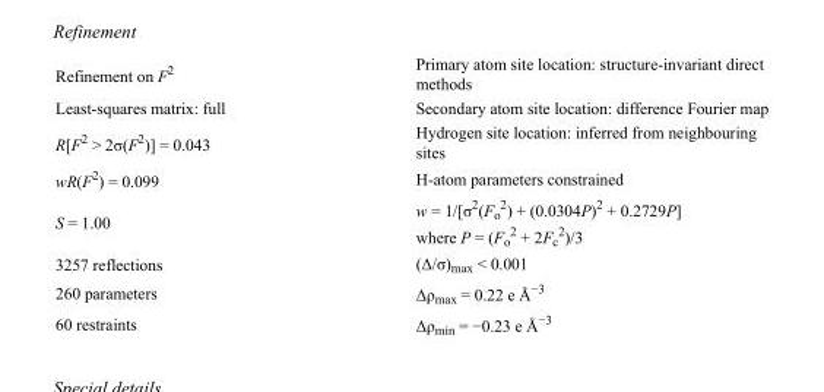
<table><tbody><tr><td>Refinement on F<sup>2</sup></td><td>Primary atom site location: structure-invariant direct methods</td></tr><tr><td>Least-squares matrix: full</td><td>Secondary atom site location: difference Fourier map</td></tr><tr><td>R[F<sup>2</sup> &gt; 2σ(F<sup>2</sup>)] = 0.043</td><td>Hydrogen site location: inferred from neighbouring sites</td></tr><tr><td>wR(F<sup>2</sup>) = 0.099</td><td>H-atom parameters constrained</td></tr><tr><td>S = 1.00</td><td>w = 1/[σ<sup>2</sup>(F<sub>o</sub> <sup>2</sup>) + (0.0304P)<sup>2</sup> + 0.2729P] where P = (F<sub>o</sub> <sup>2</sup> + 2F<sub>c</sub> <sup>2</sup>)/3</td></tr><tr><td>3257 reflections</td><td>(Δ/σ)<sub>max</sub> &lt; 0.001</td></tr><tr><td>260 parameters</td><td>Δρ<sub>max</sub> = 0.22 e Å<sup>−3</sup></td></tr><tr><td>60 restraints</td><td>Δρ<sub>min</sub> = −0.23 e Å<sup>−3</sup></td></tr></tbody></table>